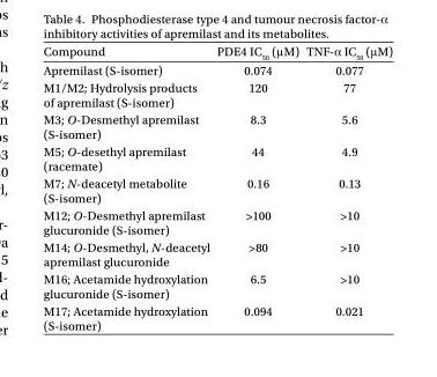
<table><thead><tr><td>Compound</td><td>PDE4 IC<sub>50</sub> (μM)</td><td>TNF-α IC<sub>50</sub> (μM)</td></tr></thead><tbody><tr><td>Apremilast (S-isomer)</td><td>0.074</td><td>0.077</td></tr><tr><td>M1/M2; Hydrolysis products of apremilast (S-isomer)</td><td>120</td><td>77</td></tr><tr><td>M3; O-Desmethyl apremilast (S-isomer)</td><td>8.3</td><td>5.6</td></tr><tr><td>M5; O-desethyl apremilast (racemate)</td><td>44</td><td>4.9</td></tr><tr><td>M7; N-deacetyl metabolite (S-isomer)</td><td>0.16</td><td>0.13</td></tr><tr><td>M12; O-Desmethyl apremilast glucuronide (S-isomer)</td><td>&gt;100</td><td>&gt;10</td></tr><tr><td>M14; O-Desmethyl, N-deacetyl apremilast glucuronide</td><td>&gt;80</td><td>&gt;10</td></tr><tr><td>M16; Acetamide hydroxylation glucuronide (S-isomer)</td><td>6.5</td><td>&gt;10</td></tr><tr><td>M17; Acetamide hydroxylation (S-isomer)</td><td>0.094</td><td>0.021</td></tr></tbody></table>